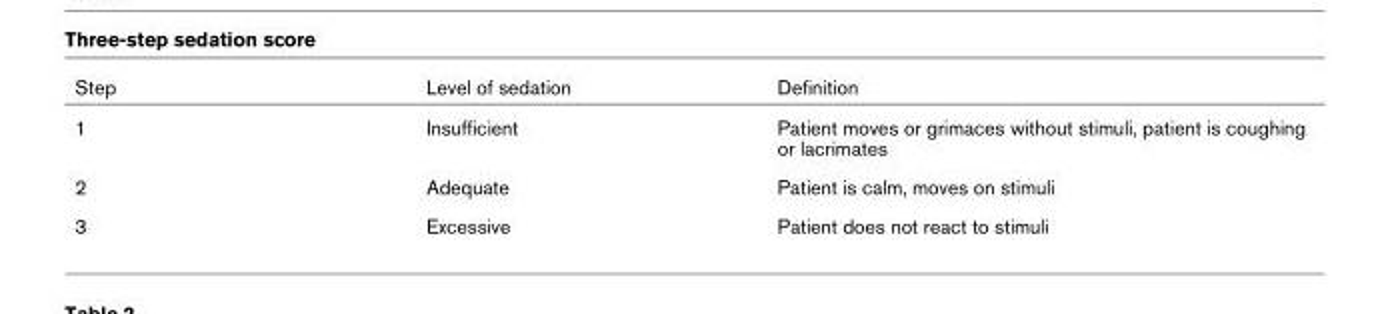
<table><thead><tr><td>Step</td><td>Level of sedation</td><td>Definition</td></tr></thead><tbody><tr><td>1</td><td>Insufficient</td><td>Patient moves or grimaces without stimuli, patient is coughing or lacrimates</td></tr><tr><td>2</td><td>Adequate</td><td>Patient is calm, moves on stimuli</td></tr><tr><td>3</td><td>Excessive</td><td>Patient does not react to stimuli</td></tr></tbody></table>